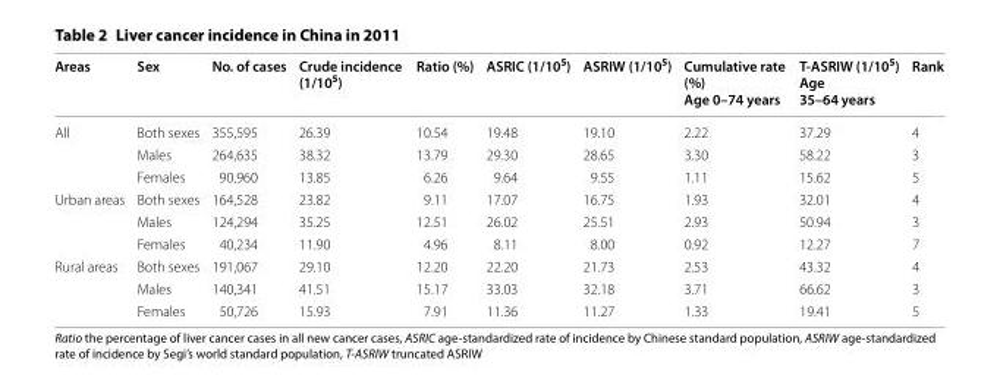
<table><thead><tr><td>Areas</td><td>Sex</td><td>No. of cases</td><td>Crude incidence (1/10<sup>5</sup>)</td><td>Ratio (%)</td><td>ASRIC (1/10<sup>5</sup>)</td><td>ASRIW (1/10<sup>5</sup>)</td><td>Cumulative rate (%) Age 0–74 years</td><td>T‑ASRIW (1/10<sup>5</sup>) Age 35–64 years</td><td>Rank</td></tr></thead><tbody><tr><td rowspan="3">All</td><td>Both sexes</td><td>355,595</td><td>26.39</td><td>10.54</td><td>19.48</td><td>19.10</td><td>2.22</td><td>37.29</td><td>4</td></tr><tr><td>Males</td><td>264,635</td><td>38.32</td><td>13.79</td><td>29.30</td><td>28.65</td><td>3.30</td><td>58.22</td><td>3</td></tr><tr><td>Females</td><td>90,960</td><td>13.85</td><td>6.26</td><td>9.64</td><td>9.55</td><td>1.11</td><td>15.62</td><td>5</td></tr><tr><td rowspan="3">Urban areas</td><td>Both sexes</td><td>164,528</td><td>23.82</td><td>9.11</td><td>17.07</td><td>16.75</td><td>1.93</td><td>32.01</td><td>4</td></tr><tr><td>Males</td><td>124,294</td><td>35.25</td><td>12.51</td><td>26.02</td><td>25.51</td><td>2.93</td><td>50.94</td><td>3</td></tr><tr><td>Females</td><td>40,234</td><td>11.90</td><td>4.96</td><td>8.11</td><td>8.00</td><td>0.92</td><td>12.27</td><td>7</td></tr><tr><td rowspan="3">Rural areas</td><td>Both sexes</td><td>191,067</td><td>29.10</td><td>12.20</td><td>22.20</td><td>21.73</td><td>2.53</td><td>43.32</td><td>4</td></tr><tr><td>Males</td><td>140,341</td><td>41.51</td><td>15.17</td><td>33.03</td><td>32.18</td><td>3.71</td><td>66.62</td><td>3</td></tr><tr><td>Females</td><td>50,726</td><td>15.93</td><td>7.91</td><td>11.36</td><td>11.27</td><td>1.33</td><td>19.41</td><td>5</td></tr></tbody></table>